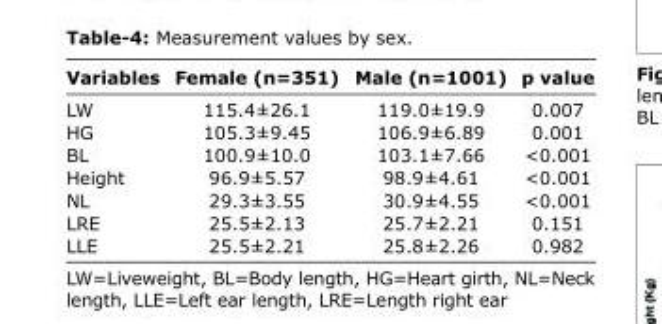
<table><thead><tr><td>Variables</td><td>Female (n=351)</td><td>Male (n=1001)</td><td>p value</td></tr></thead><tbody><tr><td>LW</td><td>115.4±26.1</td><td>119.0±19.9</td><td>0.007</td></tr><tr><td>HG</td><td>105.3±9.45</td><td>106.9±6.89</td><td>0.001</td></tr><tr><td>BL</td><td>100.9±10.0</td><td>103.1±7.66</td><td>&lt;0.001</td></tr><tr><td>Height</td><td>96.9±5.57</td><td>98.9±4.61</td><td>&lt;0.001</td></tr><tr><td>NL</td><td>29.3±3.55</td><td>30.9±4.55</td><td>&lt;0.001</td></tr><tr><td>LRE</td><td>25.5±2.13</td><td>25.7±2.21</td><td>0.151</td></tr><tr><td>LLE</td><td>25.5±2.21</td><td>25.8±2.26</td><td>0.982</td></tr></tbody></table>